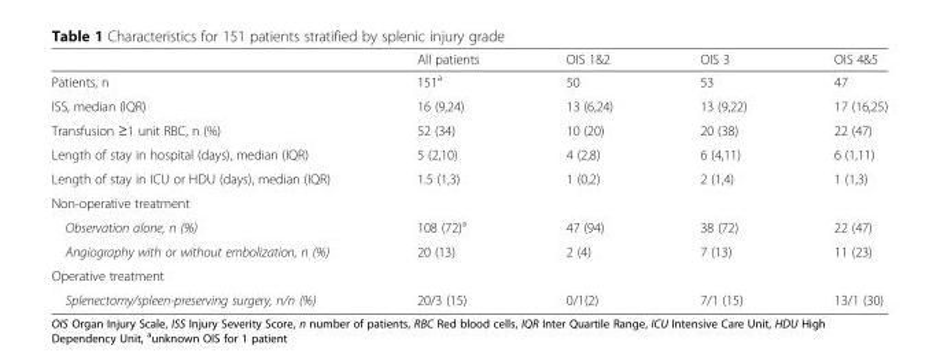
<table><thead><tr><td></td><td>All patients</td><td>OIS 1&amp;2</td><td>OIS 3</td><td>OIS 4&amp;5</td></tr></thead><tbody><tr><td>Patients, n</td><td>151<sup>a</sup></td><td>50</td><td>53</td><td>47</td></tr><tr><td>ISS, median (IQR)</td><td>16 (9,24)</td><td>13 (6,24)</td><td>13 (9,22)</td><td>17 (16,25)</td></tr><tr><td>Transfusion ≥1 unit RBC, n (%)</td><td>52 (34)</td><td>10 (20)</td><td>20 (38)</td><td>22 (47)</td></tr><tr><td>Length of stay in hospital (days), median (IQR)</td><td>5 (2,10)</td><td>4 (2,8)</td><td>6 (4,11)</td><td>6 (1,11)</td></tr><tr><td>Length of stay in ICU or HDU (days), median (IQR)</td><td>1.5 (1,3)</td><td>1 (0,2)</td><td>2 (1,4)</td><td>1 (1,3)</td></tr><tr><td colspan="5">Non-operative treatment</td></tr><tr><td>Observation alone, n (%)</td><td>108 (72)<sup>a</sup></td><td>47 (94)</td><td>38 (72)</td><td>22 (47)</td></tr><tr><td>Angiography with or without embolization, n (%)</td><td>20 (13)</td><td>2 (4)</td><td>7 (13)</td><td>11 (23)</td></tr><tr><td colspan="5">Operative treatment</td></tr><tr><td>Splenectomy/spleen-preserving surgery, n/n (%)</td><td>20/3 (15)</td><td>0/1(2)</td><td>7/1 (15)</td><td>13/1 (30)</td></tr></tbody></table>